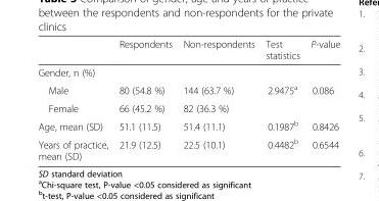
<table><thead><tr><td></td><td>Respondents</td><td>Non-respondents</td><td>Test statistics</td><td>P-value</td></tr></thead><tbody><tr><td colspan="5">Gender, n (%)</td></tr><tr><td>Male</td><td>80 (54.8 %)</td><td>144 (63.7 %)</td><td>2.9475<sup>a</sup></td><td>0.086</td></tr><tr><td>Female</td><td>66 (45.2 %)</td><td>82 (36.3 %)</td><td></td><td></td></tr><tr><td>Age, mean (SD)</td><td>51.1 (11.5)</td><td>51.4 (11.1)</td><td>0.1987<sup>b</sup></td><td>0.8426</td></tr><tr><td>Years of practice, mean (SD)</td><td>21.9 (12.5)</td><td>22.5 (10.1)</td><td>0.4482<sup>b</sup></td><td>0.6544</td></tr></tbody></table>